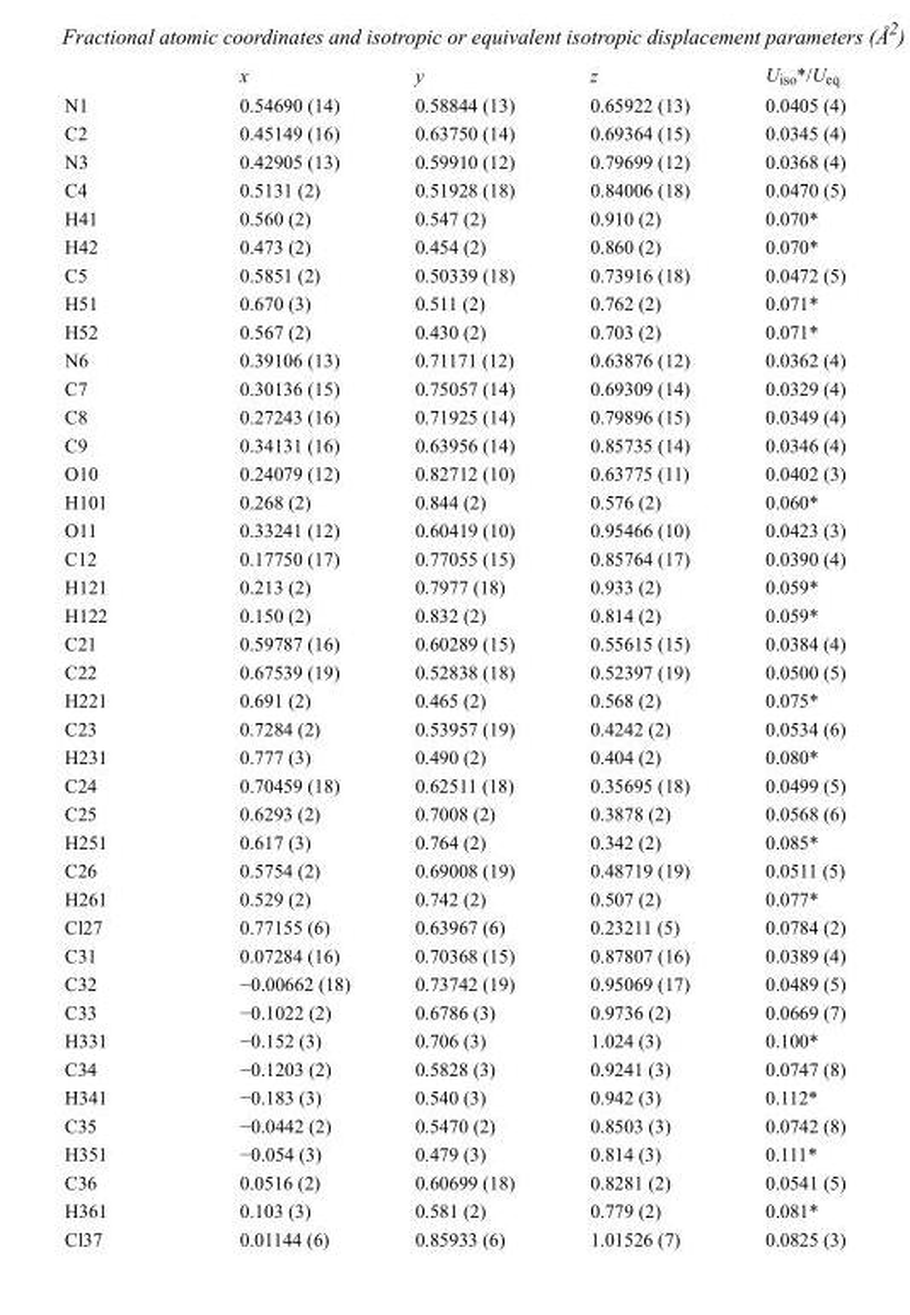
<table><thead><tr><td></td><td>x</td><td>y</td><td>z</td><td>U<sub>iso</sub>*/U<sub>eq</sub></td></tr></thead><tbody><tr><td>N1</td><td>0.54690 (14)</td><td>0.58844 (13)</td><td>0.65922 (13)</td><td>0.0405 (4)</td></tr><tr><td>C2</td><td>0.45149 (16)</td><td>0.63750 (14)</td><td>0.69364 (15)</td><td>0.0345 (4)</td></tr><tr><td>N3</td><td>0.42905 (13)</td><td>0.59910 (12)</td><td>0.79699 (12)</td><td>0.0368 (4)</td></tr><tr><td>C4</td><td>0.5131 (2)</td><td>0.51928 (18)</td><td>0.84006 (18)</td><td>0.0470 (5)</td></tr><tr><td>H41</td><td>0.560 (2)</td><td>0.547 (2)</td><td>0.910 (2)</td><td>0.070*</td></tr><tr><td>H42</td><td>0.473 (2)</td><td>0.454 (2)</td><td>0.860 (2)</td><td>0.070*</td></tr><tr><td>C5</td><td>0.5851 (2)</td><td>0.50339 (18)</td><td>0.73916 (18)</td><td>0.0472 (5)</td></tr><tr><td>H51</td><td>0.670 (3)</td><td>0.511 (2)</td><td>0.762 (2)</td><td>0.071*</td></tr><tr><td>H52</td><td>0.567 (2)</td><td>0.430 (2)</td><td>0.703 (2)</td><td>0.071*</td></tr><tr><td>N6</td><td>0.39106 (13)</td><td>0.71171 (12)</td><td>0.63876 (12)</td><td>0.0362 (4)</td></tr><tr><td>C7</td><td>0.30136 (15)</td><td>0.75057 (14)</td><td>0.69309 (14)</td><td>0.0329 (4)</td></tr><tr><td>C8</td><td>0.27243 (16)</td><td>0.71925 (14)</td><td>0.79896 (15)</td><td>0.0349 (4)</td></tr><tr><td>C9</td><td>0.34131 (16)</td><td>0.63956 (14)</td><td>0.85735 (14)</td><td>0.0346 (4)</td></tr><tr><td>O10</td><td>0.24079 (12)</td><td>0.82712 (10)</td><td>0.63775 (11)</td><td>0.0402 (3)</td></tr><tr><td>H101</td><td>0.268 (2)</td><td>0.844 (2)</td><td>0.576 (2)</td><td>0.060*</td></tr><tr><td>O11</td><td>0.33241 (12)</td><td>0.60419 (10)</td><td>0.95466 (10)</td><td>0.0423 (3)</td></tr><tr><td>C12</td><td>0.17750 (17)</td><td>0.77055 (15)</td><td>0.85764 (17)</td><td>0.0390 (4)</td></tr><tr><td>H121</td><td>0.213 (2)</td><td>0.7977 (18)</td><td>0.933 (2)</td><td>0.059*</td></tr><tr><td>H122</td><td>0.150 (2)</td><td>0.832 (2)</td><td>0.814 (2)</td><td>0.059*</td></tr><tr><td>C21</td><td>0.59787 (16)</td><td>0.60289 (15)</td><td>0.55615 (15)</td><td>0.0384 (4)</td></tr><tr><td>C22</td><td>0.67539 (19)</td><td>0.52838 (18)</td><td>0.52397 (19)</td><td>0.0500 (5)</td></tr><tr><td>H221</td><td>0.691 (2)</td><td>0.465 (2)</td><td>0.568 (2)</td><td>0.075*</td></tr><tr><td>C23</td><td>0.7284 (2)</td><td>0.53957 (19)</td><td>0.4242 (2)</td><td>0.0534 (6)</td></tr><tr><td>H231</td><td>0.777 (3)</td><td>0.490 (2)</td><td>0.404 (2)</td><td>0.080*</td></tr><tr><td>C24</td><td>0.70459 (18)</td><td>0.62511 (18)</td><td>0.35695 (18)</td><td>0.0499 (5)</td></tr><tr><td>C25</td><td>0.6293 (2)</td><td>0.7008 (2)</td><td>0.3878 (2)</td><td>0.0568 (6)</td></tr><tr><td>H251</td><td>0.617 (3)</td><td>0.764 (2)</td><td>0.342 (2)</td><td>0.085*</td></tr><tr><td>C26</td><td>0.5754 (2)</td><td>0.69008 (19)</td><td>0.48719 (19)</td><td>0.0511 (5)</td></tr><tr><td>H261</td><td>0.529 (2)</td><td>0.742 (2)</td><td>0.507 (2)</td><td>0.077*</td></tr><tr><td>Cl27</td><td>0.77155 (6)</td><td>0.63967 (6)</td><td>0.23211 (5)</td><td>0.0784 (2)</td></tr><tr><td>C31</td><td>0.07284 (16)</td><td>0.70368 (15)</td><td>0.87807 (16)</td><td>0.0389 (4)</td></tr><tr><td>C32</td><td>−0.00662 (18)</td><td>0.73742 (19)</td><td>0.95069 (17)</td><td>0.0489 (5)</td></tr><tr><td>C33</td><td>−0.1022 (2)</td><td>0.6786 (3)</td><td>0.9736 (2)</td><td>0.0669 (7)</td></tr><tr><td>H331</td><td>−0.152 (3)</td><td>0.706 (3)</td><td>1.024 (3)</td><td>0.100*</td></tr><tr><td>C34</td><td>−0.1203 (2)</td><td>0.5828 (3)</td><td>0.9241 (3)</td><td>0.0747 (8)</td></tr><tr><td>H341</td><td>−0.183 (3)</td><td>0.540 (3)</td><td>0.942 (3)</td><td>0.112*</td></tr><tr><td>C35</td><td>−0.0442 (2)</td><td>0.5470 (2)</td><td>0.8503 (3)</td><td>0.0742 (8)</td></tr><tr><td>H351</td><td>−0.054 (3)</td><td>0.479 (3)</td><td>0.814 (3)</td><td>0.111*</td></tr><tr><td>C36</td><td>0.0516 (2)</td><td>0.60699 (18)</td><td>0.8281 (2)</td><td>0.0541 (5)</td></tr><tr><td>H361</td><td>0.103 (3)</td><td>0.581 (2)</td><td>0.779 (2)</td><td>0.081*</td></tr><tr><td>Cl37</td><td>0.01144 (6)</td><td>0.85933 (6)</td><td>1.01526 (7)</td><td>0.0825 (3)</td></tr></tbody></table>